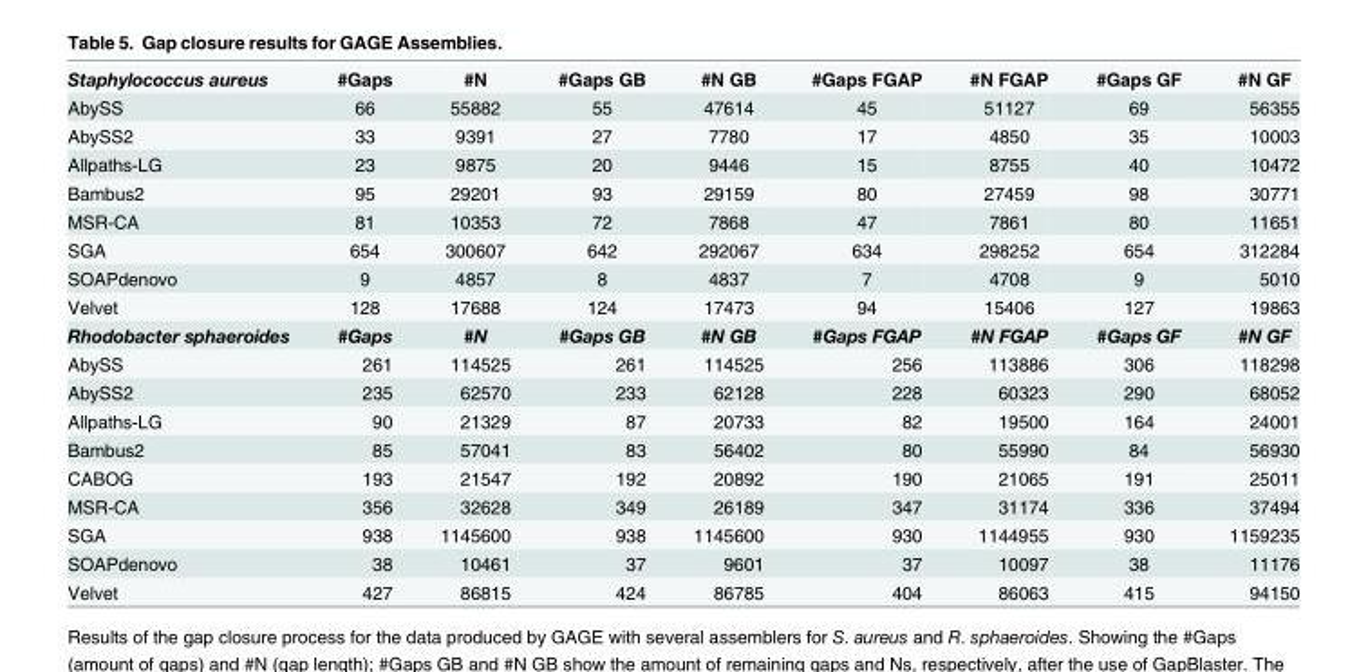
<table><tbody><tr><td>Staphylococcus aureus</td><td>#Gaps</td><td>#N</td><td>#Gaps GB</td><td>#N GB</td><td>#Gaps FGAP</td><td>#N FGAP</td><td>#Gaps GF</td><td>#N GF</td></tr><tr><td>AbySS</td><td>66</td><td>55882</td><td>55</td><td>47614</td><td>45</td><td>51127</td><td>69</td><td>56355</td></tr><tr><td>AbySS2</td><td>33</td><td>9391</td><td>27</td><td>7780</td><td>17</td><td>4850</td><td>35</td><td>10003</td></tr><tr><td>Allpaths-LG</td><td>23</td><td>9875</td><td>20</td><td>9446</td><td>15</td><td>8755</td><td>40</td><td>10472</td></tr><tr><td>Bambus2</td><td>95</td><td>29201</td><td>93</td><td>29159</td><td>80</td><td>27459</td><td>98</td><td>30771</td></tr><tr><td>MSR-CA</td><td>81</td><td>10353</td><td>72</td><td>7868</td><td>47</td><td>7861</td><td>80</td><td>11651</td></tr><tr><td>SGA</td><td>654</td><td>300607</td><td>642</td><td>292067</td><td>634</td><td>298252</td><td>654</td><td>312284</td></tr><tr><td>SOAPdenovo</td><td>9</td><td>4857</td><td>8</td><td>4837</td><td>7</td><td>4708</td><td>9</td><td>5010</td></tr><tr><td>Velvet</td><td>128</td><td>17688</td><td>124</td><td>17473</td><td>94</td><td>15406</td><td>127</td><td>19863</td></tr><tr><td>Rhodobacter sphaeroides</td><td>#Gaps</td><td>#N</td><td>#Gaps GB</td><td>#N GB</td><td>#Gaps FGAP</td><td>#N FGAP</td><td>#Gaps GF</td><td>#N GF</td></tr><tr><td>AbySS</td><td>261</td><td>114525</td><td>261</td><td>114525</td><td>256</td><td>113886</td><td>306</td><td>118298</td></tr><tr><td>AbySS2</td><td>235</td><td>62570</td><td>233</td><td>62128</td><td>228</td><td>60323</td><td>290</td><td>68052</td></tr><tr><td>Allpaths-LG</td><td>90</td><td>21329</td><td>87</td><td>20733</td><td>82</td><td>19500</td><td>164</td><td>24001</td></tr><tr><td>Bambus2</td><td>85</td><td>57041</td><td>83</td><td>56402</td><td>80</td><td>55990</td><td>84</td><td>56930</td></tr><tr><td>CABOG</td><td>193</td><td>21547</td><td>192</td><td>20892</td><td>190</td><td>21065</td><td>191</td><td>25011</td></tr><tr><td>MSR-CA</td><td>356</td><td>32628</td><td>349</td><td>26189</td><td>347</td><td>31174</td><td>336</td><td>37494</td></tr><tr><td>SGA</td><td>938</td><td>1145600</td><td>938</td><td>1145600</td><td>930</td><td>1144955</td><td>930</td><td>1159235</td></tr><tr><td>SOAPdenovo</td><td>38</td><td>10461</td><td>37</td><td>9601</td><td>37</td><td>10097</td><td>38</td><td>11176</td></tr><tr><td>Velvet</td><td>427</td><td>86815</td><td>424</td><td>86785</td><td>404</td><td>86063</td><td>415</td><td>94150</td></tr></tbody></table>